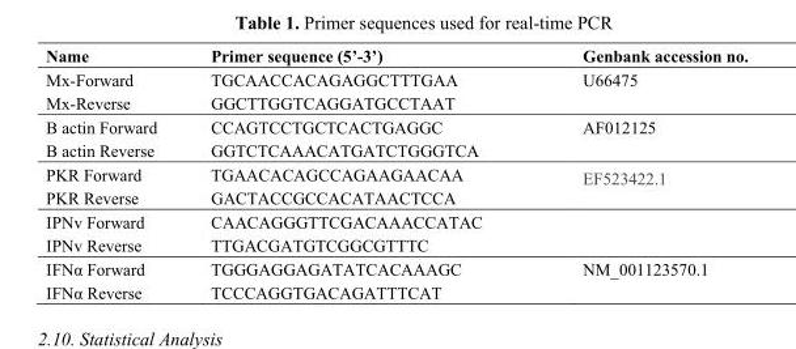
<table><thead><tr><td>Name</td><td>Primer sequence (5’-3’)</td><td>Genbank accession no.</td></tr></thead><tbody><tr><td>Mx-Forward Mx-Reverse</td><td>TGCAACCACAGAGGCTTTGAA GGCTTGGTCAGGATGCCTAAT</td><td>U66475</td></tr><tr><td>Β actin Forward B actin Reverse</td><td>CCAGTCCTGCTCACTGAGGC GGTCTCAAACATGATCTGGGTCA</td><td>AF012125</td></tr><tr><td>PKR Forward PKR Reverse</td><td>TGAACACAGCCAGAAGAACAA GACTACCGCCACATAACTCCA</td><td>EF523422.1</td></tr><tr><td>IPNv Forward IPNv Reverse</td><td>CAACAGGGTTCGACAAACCATAC TTGACGATGTCGGCGTTTC</td><td></td></tr><tr><td>IFNα Forward IFNα Reverse</td><td>TGGGAGGAGATATCACAAAGC TCCCAGGTGACAGATTTCAT</td><td>NM_001123570.1</td></tr></tbody></table>